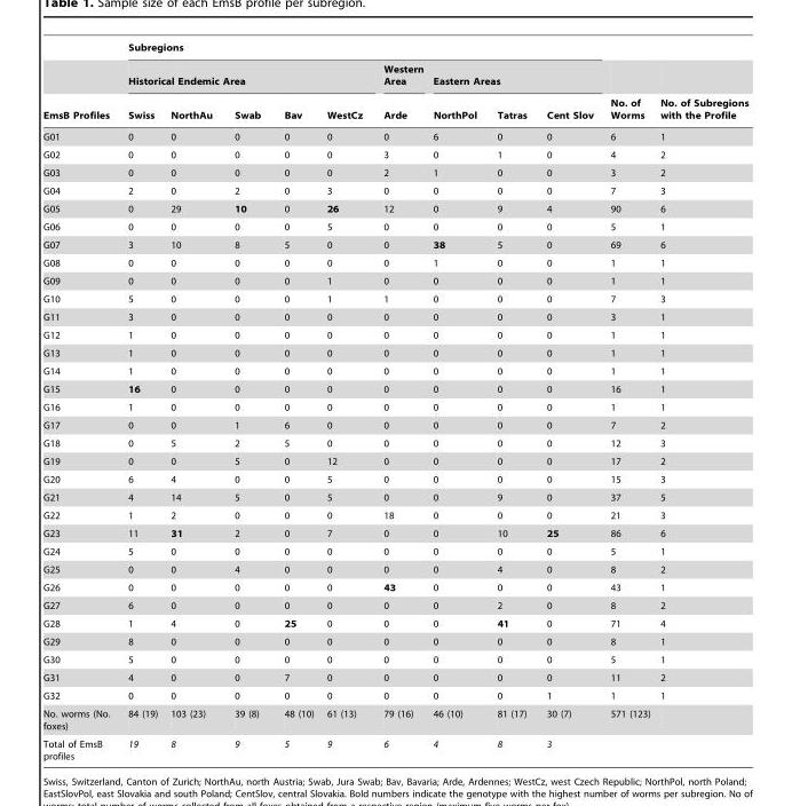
<table><thead><tr><td rowspan="3">EmsB Profiles</td><td colspan="9">Subregions</td><td rowspan="3">No. of Worms</td><td rowspan="3">No. of Subregions with the Profile</td></tr><tr><td colspan="5">Historical Endemic Area</td><td rowspan="2">Western Area Arde</td><td colspan="3">Eastern Areas</td></tr><tr><td>Swiss</td><td>NorthAu</td><td>Swab</td><td>Bav</td><td>WestCz</td><td>NorthPol</td><td>Tatras</td><td>Cent Slov</td></tr></thead><tbody><tr><td>G01</td><td>0</td><td>0</td><td>0</td><td>0</td><td>0</td><td>0</td><td>6</td><td>0</td><td>0</td><td>6</td><td>1</td></tr><tr><td>G02</td><td>0</td><td>0</td><td>0</td><td>0</td><td>0</td><td>3</td><td>0</td><td>1</td><td>0</td><td>4</td><td>2</td></tr><tr><td>G03</td><td>0</td><td>0</td><td>0</td><td>0</td><td>0</td><td>2</td><td>1</td><td>0</td><td>0</td><td>3</td><td>2</td></tr><tr><td>G04</td><td>2</td><td>0</td><td>2</td><td>0</td><td>3</td><td>0</td><td>0</td><td>0</td><td>0</td><td>7</td><td>3</td></tr><tr><td>G05</td><td>0</td><td>29</td><td>10</td><td>0</td><td>26</td><td>12</td><td>0</td><td>9</td><td>4</td><td>90</td><td>6</td></tr><tr><td>G06</td><td>0</td><td>0</td><td>0</td><td>0</td><td>5</td><td>0</td><td>0</td><td>0</td><td>0</td><td>5</td><td>1</td></tr><tr><td>G07</td><td>3</td><td>10</td><td>8</td><td>5</td><td>0</td><td>0</td><td>38</td><td>5</td><td>0</td><td>69</td><td>6</td></tr><tr><td>G08</td><td>0</td><td>0</td><td>0</td><td>0</td><td>0</td><td>0</td><td>1</td><td>0</td><td>0</td><td>1</td><td>1</td></tr><tr><td>G09</td><td>0</td><td>0</td><td>0</td><td>0</td><td>1</td><td>0</td><td>0</td><td>0</td><td>0</td><td>1</td><td>1</td></tr><tr><td>G10</td><td>5</td><td>0</td><td>0</td><td>0</td><td>1</td><td>1</td><td>0</td><td>0</td><td>0</td><td>7</td><td>3</td></tr><tr><td>G11</td><td>3</td><td>0</td><td>0</td><td>0</td><td>0</td><td>0</td><td>0</td><td>0</td><td>0</td><td>3</td><td>1</td></tr><tr><td>G12</td><td>1</td><td>0</td><td>0</td><td>0</td><td>0</td><td>0</td><td>0</td><td>0</td><td>0</td><td>1</td><td>1</td></tr><tr><td>G13</td><td>1</td><td>0</td><td>0</td><td>0</td><td>0</td><td>0</td><td>0</td><td>0</td><td>0</td><td>1</td><td>1</td></tr><tr><td>G14</td><td>1</td><td>0</td><td>0</td><td>0</td><td>0</td><td>0</td><td>0</td><td>0</td><td>0</td><td>1</td><td>1</td></tr><tr><td>G15</td><td>16</td><td>0</td><td>0</td><td>0</td><td>0</td><td>0</td><td>0</td><td>0</td><td>0</td><td>16</td><td>1</td></tr><tr><td>G16</td><td>1</td><td>0</td><td>0</td><td>0</td><td>0</td><td>0</td><td>0</td><td>0</td><td>0</td><td>1</td><td>1</td></tr><tr><td>G17</td><td>0</td><td>0</td><td>1</td><td>6</td><td>0</td><td>0</td><td>0</td><td>0</td><td>0</td><td>7</td><td>2</td></tr><tr><td>G18</td><td>0</td><td>5</td><td>2</td><td>5</td><td>0</td><td>0</td><td>0</td><td>0</td><td>0</td><td>12</td><td>3</td></tr><tr><td>G19</td><td>0</td><td>0</td><td>5</td><td>0</td><td>12</td><td>0</td><td>0</td><td>0</td><td>0</td><td>17</td><td>2</td></tr><tr><td>G20</td><td>6</td><td>4</td><td>0</td><td>0</td><td>5</td><td>0</td><td>0</td><td>0</td><td>0</td><td>15</td><td>3</td></tr><tr><td>G21</td><td>4</td><td>14</td><td>5</td><td>0</td><td>5</td><td>0</td><td>0</td><td>9</td><td>0</td><td>37</td><td>5</td></tr><tr><td>G22</td><td>1</td><td>2</td><td>0</td><td>0</td><td>0</td><td>18</td><td>0</td><td>0</td><td>0</td><td>21</td><td>3</td></tr><tr><td>G23</td><td>11</td><td>31</td><td>2</td><td>0</td><td>7</td><td>0</td><td>0</td><td>10</td><td>25</td><td>86</td><td>6</td></tr><tr><td>G24</td><td>5</td><td>0</td><td>0</td><td>0</td><td>0</td><td>0</td><td>0</td><td>0</td><td>0</td><td>5</td><td>1</td></tr><tr><td>G25</td><td>0</td><td>0</td><td>4</td><td>0</td><td>0</td><td>0</td><td>0</td><td>4</td><td>0</td><td>8</td><td>2</td></tr><tr><td>G26</td><td>0</td><td>0</td><td>0</td><td>0</td><td>0</td><td>43</td><td>0</td><td>0</td><td>0</td><td>43</td><td>1</td></tr><tr><td>G27</td><td>6</td><td>0</td><td>0</td><td>0</td><td>0</td><td>0</td><td>0</td><td>2</td><td>0</td><td>8</td><td>2</td></tr><tr><td>G28</td><td>1</td><td>4</td><td>0</td><td>25</td><td>0</td><td>0</td><td>0</td><td>41</td><td>0</td><td>71</td><td>4</td></tr><tr><td>G29</td><td>8</td><td>0</td><td>0</td><td>0</td><td>0</td><td>0</td><td>0</td><td>0</td><td>0</td><td>8</td><td>1</td></tr><tr><td>G30</td><td>5</td><td>0</td><td>0</td><td>0</td><td>0</td><td>0</td><td>0</td><td>0</td><td>0</td><td>5</td><td>1</td></tr><tr><td>G31</td><td>4</td><td>0</td><td>0</td><td>7</td><td>0</td><td>0</td><td>0</td><td>0</td><td>0</td><td>11</td><td>2</td></tr><tr><td>G32</td><td>0</td><td>0</td><td>0</td><td>0</td><td>0</td><td>0</td><td>0</td><td>0</td><td>1</td><td>1</td><td>1</td></tr><tr><td>No. worms (No. foxes)</td><td>84 (19)</td><td>103 (23)</td><td>39 (8)</td><td>48 (10)</td><td>61 (13)</td><td>79 (16)</td><td>46 (10)</td><td>81 (17)</td><td>30 (7)</td><td>571 (123)</td><td></td></tr><tr><td>Total of EmsB profiles</td><td>19</td><td>8</td><td>9</td><td>5</td><td>9</td><td>6</td><td>4</td><td>8</td><td>3</td><td></td><td></td></tr></tbody></table>